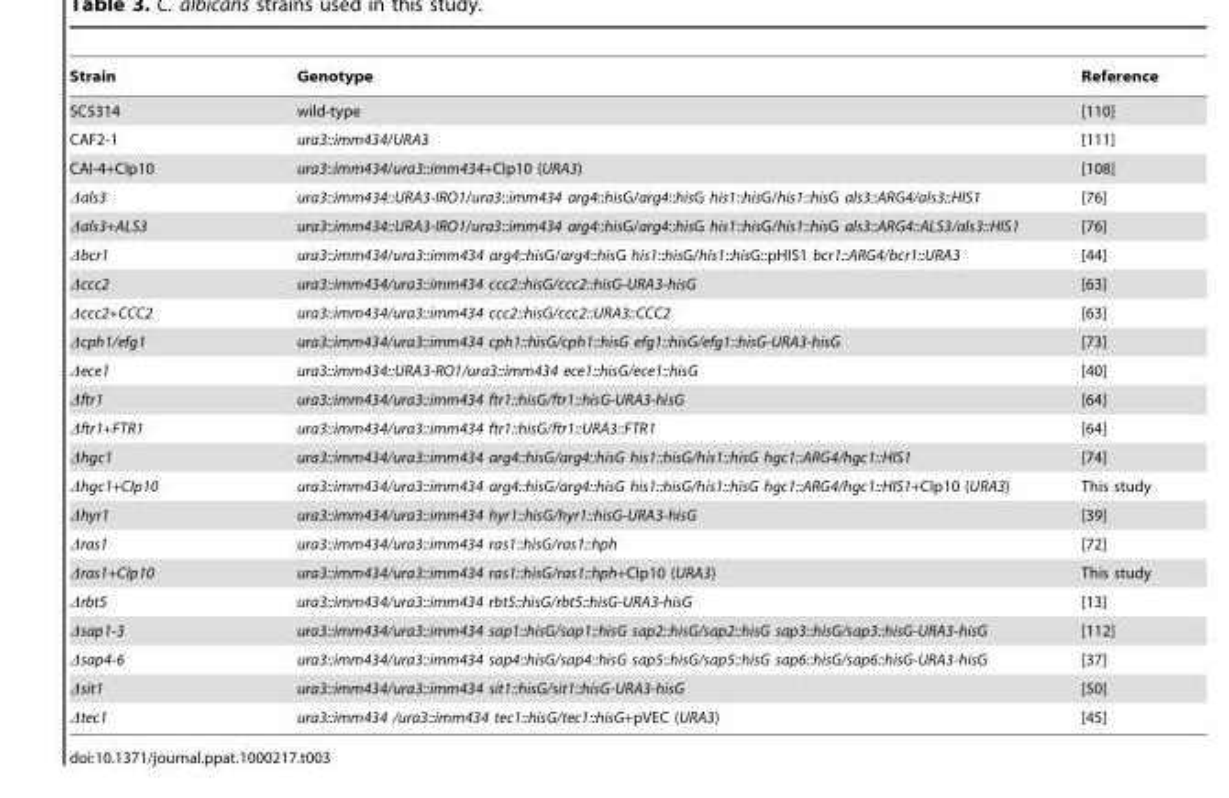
<table><thead><tr><td>Strain</td><td>Genotype</td><td>Reference</td></tr></thead><tbody><tr><td>SC5314</td><td>wild-type</td><td>[110]</td></tr><tr><td>CAF2-1</td><td>ura3::imm434/URA3</td><td>[111]</td></tr><tr><td>CAI-4+CIp10</td><td>ura3::imm434/ura3::imm434+CIp10 (URA3)</td><td>[108]</td></tr><tr><td>Δals3</td><td>ura3::imm434::URA3-IRO1/ura3::imm434 arg4::hisG/arg4::hisG his1::hisG/his1::hisG als3::ARG4/als3::HIS1</td><td>[76]</td></tr><tr><td>Δals3+ALS3</td><td>ura3::imm434::URA3-IRO1/ura3::imm434 arg4::hisG/arg4::hisG his1::hisG/his1::hisG als3::ARG4::ALS3/als3::HIS1</td><td>[76]</td></tr><tr><td>Δbcr1</td><td>ura3::imm434/ura3::imm434 arg4::hisG/arg4::hisG his1::hisG/his1::hisG::pHIS1 bcr1::ARG4/bcr1::URA3</td><td>[44]</td></tr><tr><td>Δccc2</td><td>ura3::imm434/ura3::imm434 ccc2::hisG/ccc2::hisG-URA3-hisG</td><td>[63]</td></tr><tr><td>Δccc2+CCC2</td><td>ura3::imm434/ura3::imm434 ccc2::hisG/ccc2::URA3::CCC2</td><td>[63]</td></tr><tr><td>Δcph1/efg1</td><td>ura3::imm434/ura3::imm434 cph1::hisG/cph1::hisG efg1::hisG/efg1::hisG-URA3-hisG</td><td>[73]</td></tr><tr><td>Δece1</td><td>ura3::imm434::URA3-RO1/ura3::imm434 ece1::hisG/ece1::hisG</td><td>[40]</td></tr><tr><td>Δftr1</td><td>ura3::imm434/ura3::imm434 ftr1::hisG/ftr1::hisG-URA3-hisG</td><td>[64]</td></tr><tr><td>Δftr1+FTR1</td><td>ura3::imm434/ura3::imm434 ftr1::hisG/ftr1::URA3::FTR1</td><td>[64]</td></tr><tr><td>Δhgc1</td><td>ura3::imm434/ura3::imm434 arg4::hisG/arg4::hisG his1::hisG/his1::hisG hgc1::ARG4/hgc1::HIS1</td><td>[74]</td></tr><tr><td>Δhgc1+CIp10</td><td>ura3::imm434/ura3::imm434 arg4::hisG/arg4::hisG his1::hisG/his1::hisG hgc1::ARG4/hgc1::HIS1+CIp10 (URA3)</td><td>This study</td></tr><tr><td>Δhyr1</td><td>ura3::imm434/ura3::imm434 hyr1::hisG/hyr1::hisG-URA3-hisG</td><td>[39]</td></tr><tr><td>Δras1</td><td>ura3::imm434/ura3::imm434 ras1::hisG/ras1::hph</td><td>[72]</td></tr><tr><td>Δras1+CIp10</td><td>ura3::imm434/ura3::imm434 ras1::hisG/ras1::hph+CIp10 (URA3)</td><td>This study</td></tr><tr><td>Δrbt5</td><td>ura3::imm434/ura3::imm434 rbt5::hisG/rbt5::hisG-URA3-hisG</td><td>[13]</td></tr><tr><td>Δsap1-3</td><td>ura3::imm434/ura3::imm434 sap1::hisG/sap1::hisG sap2::hisG/sap2::hisG sap3::hisG/sap3::hisG-URA3-hisG</td><td>[112]</td></tr><tr><td>Δsap4-6</td><td>ura3::imm434/ura3::imm434 sap4::hisG/sap4::hisG sap5::hisG/sap5::hisG sap6::hisG/sap6::hisG-URA3-hisG</td><td>[37]</td></tr><tr><td>Δsit1</td><td>ura3::imm434/ura3::imm434 sit1::hisG/sit1::hisG-URA3-hisG</td><td>[50]</td></tr><tr><td>Δtec1</td><td>ura3::imm434 /ura3::imm434 tec1::hisG/tec1::hisG+pVEC (URA3)</td><td>[45]</td></tr></tbody></table>